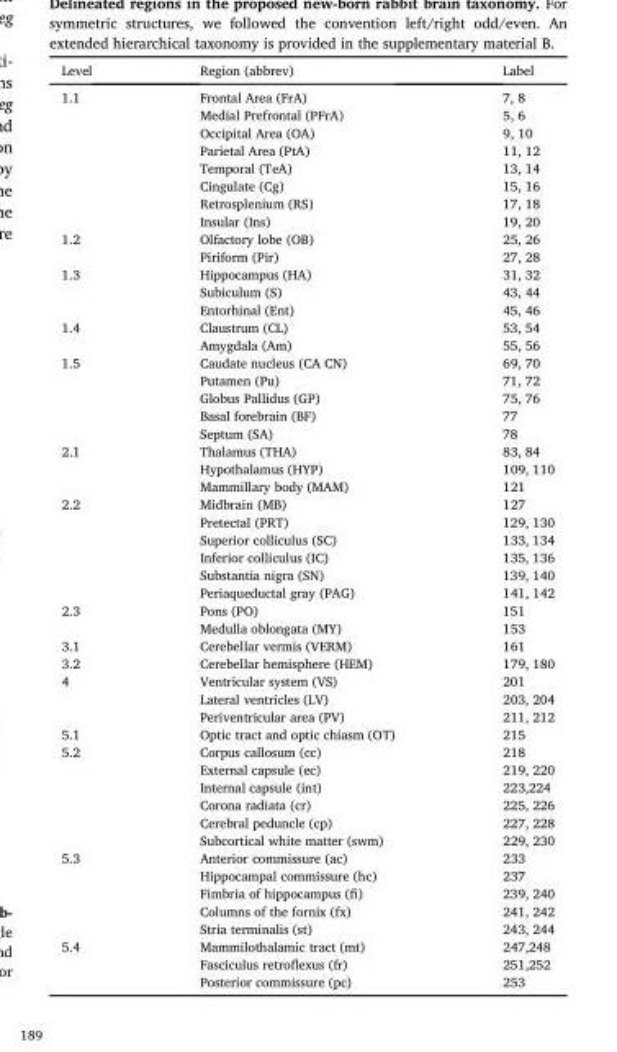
<table><thead><tr><td>Level</td><td>Region (abbrev)</td><td>Label</td></tr></thead><tbody><tr><td rowspan="8">1.1</td><td>Frontal Area (FrA)</td><td>7, 8</td></tr><tr><td>Medial Prefrontal (PFrA)</td><td>5, 6</td></tr><tr><td>Occipital Area (OA)</td><td>9, 10</td></tr><tr><td>Parietal Area (PtA)</td><td>11, 12</td></tr><tr><td>Temporal (TeA)</td><td>13, 14</td></tr><tr><td>Cingulate (Cg)</td><td>15, 16</td></tr><tr><td>Retrosplenium (RS)</td><td>17, 18</td></tr><tr><td>Insular (Ins)</td><td>19, 20</td></tr><tr><td rowspan="2">1.2</td><td>Olfactory lobe (OB)</td><td>25, 26</td></tr><tr><td>Piriform (Pir)</td><td>27, 28</td></tr><tr><td rowspan="3">1.3</td><td>Hippocampus (HA)</td><td>31, 32</td></tr><tr><td>Subiculum (S)</td><td>43, 44</td></tr><tr><td>Entorhinal (Ent)</td><td>45, 46</td></tr><tr><td rowspan="2">1.4</td><td>Claustrum (CL)</td><td>53, 54</td></tr><tr><td>Amygdala (Am)</td><td>55, 56</td></tr><tr><td rowspan="5">1.5</td><td>Caudate nucleus (CA CN)</td><td>69, 70</td></tr><tr><td>Putamen (Pu)</td><td>71, 72</td></tr><tr><td>Globus Pallidus (GP)</td><td>75, 76</td></tr><tr><td>Basal forebrain (BF)</td><td>77</td></tr><tr><td>Septum (SA)</td><td>78</td></tr><tr><td rowspan="3">2.1</td><td>Thalamus (THA)</td><td>83, 84</td></tr><tr><td>Hypothalamus (HYP)</td><td>109, 110</td></tr><tr><td>Mammillary body (MAM)</td><td>121</td></tr><tr><td rowspan="6">2.2</td><td>Midbrain (MB)</td><td>127</td></tr><tr><td>Pretectal (PRT)</td><td>129, 130</td></tr><tr><td>Superior colliculus (SC)</td><td>133, 134</td></tr><tr><td>Inferior colliculus (IC)</td><td>135, 136</td></tr><tr><td>Substantia nigra (SN)</td><td>139, 140</td></tr><tr><td>Periaqueductal gray (PAG)</td><td>141, 142</td></tr><tr><td rowspan="2">2.3</td><td>Pons (PO)</td><td>151</td></tr><tr><td>Medulla oblongata (MY)</td><td>153</td></tr><tr><td>3.1</td><td>Cerebellar vermis (VERM)</td><td>161</td></tr><tr><td>3.2</td><td>Cerebellar hemisphere (HEM)</td><td>179, 180</td></tr><tr><td rowspan="3">4</td><td>Ventricular system (VS)</td><td>201</td></tr><tr><td>Lateral ventricles (LV)</td><td>203, 204</td></tr><tr><td>Periventricular area (PV)</td><td>211, 212</td></tr><tr><td>5.1</td><td>Optic tract and optic chiasm (OT)</td><td>215</td></tr><tr><td rowspan="6">5.2</td><td>Corpus callosum (cc)</td><td>218</td></tr><tr><td>External capsule (ec)</td><td>219, 220</td></tr><tr><td>Internal capsule (int)</td><td>223,224</td></tr><tr><td>Corona radiata (cr)</td><td>225, 226</td></tr><tr><td>Cerebral peduncle (cp)</td><td>227, 228</td></tr><tr><td>Subcortical white matter (swm)</td><td>229, 230</td></tr><tr><td rowspan="5">5.3</td><td>Anterior commissure (ac)</td><td>233</td></tr><tr><td>Hippocampal commissure (hc)</td><td>237</td></tr><tr><td>Fimbria of hippocampus (fi)</td><td>239, 240</td></tr><tr><td>Columns of the fornix (fx)</td><td>241, 242</td></tr><tr><td>Stria terminalis (st)</td><td>243, 244</td></tr><tr><td rowspan="3">5.4</td><td>Mammilothalamic tract (mt)</td><td>247,248</td></tr><tr><td>Fasciculus retroflexus (fr)</td><td>251,252</td></tr><tr><td>Posterior commissure (pc)</td><td>253</td></tr></tbody></table>